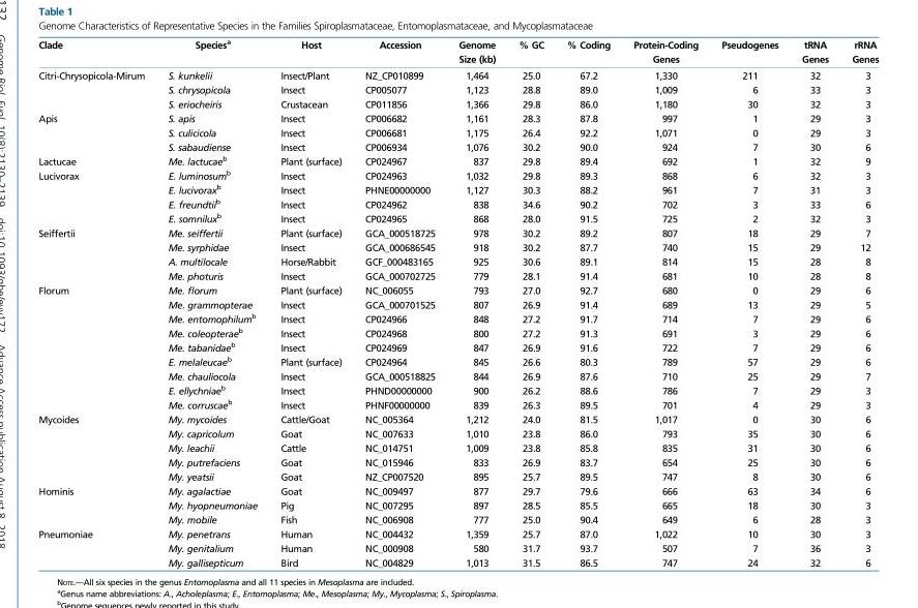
<table><thead><tr><td>Clade</td><td>Species<sup>a</sup></td><td>Host</td><td>Accession</td><td>Genome Size (kb)</td><td>% GC</td><td>% Coding</td><td>Protein-Coding Genes</td><td>Pseudogenes</td><td>tRNA Genes</td><td>rRNA Genes</td></tr></thead><tbody><tr><td rowspan="3">Citri-Chrysopicola-Mirum</td><td>S. kunkelii</td><td>Insect/Plant</td><td>NZ_CP010899</td><td>1,464</td><td>25.0</td><td>67.2</td><td>1,330</td><td>211</td><td>32</td><td>3</td></tr><tr><td>S. chrysopicola</td><td>Insect</td><td>CP005077</td><td>1,123</td><td>28.8</td><td>89.0</td><td>1,009</td><td>6</td><td>33</td><td>3</td></tr><tr><td>S. eriocheiris</td><td>Crustacean</td><td>CP011856</td><td>1,366</td><td>29.8</td><td>86.0</td><td>1,180</td><td>30</td><td>32</td><td>3</td></tr><tr><td rowspan="3">Apis</td><td>S. apis</td><td>Insect</td><td>CP006682</td><td>1,161</td><td>28.3</td><td>87.8</td><td>997</td><td>1</td><td>29</td><td>3</td></tr><tr><td>S. culicicola</td><td>Insect</td><td>CP006681</td><td>1,175</td><td>26.4</td><td>92.2</td><td>1,071</td><td>0</td><td>29</td><td>3</td></tr><tr><td>S. sabaudiense</td><td>Insect</td><td>CP006934</td><td>1,076</td><td>30.2</td><td>90.0</td><td>924</td><td>7</td><td>30</td><td>6</td></tr><tr><td>Lactucae</td><td>Me. lactucae<sup>b</sup></td><td>Plant (surface)</td><td>CP024967</td><td>837</td><td>29.8</td><td>89.4</td><td>692</td><td>1</td><td>32</td><td>9</td></tr><tr><td rowspan="4">Lucivorax</td><td>E. luminosum<sup>b</sup></td><td>Insect</td><td>CP024963</td><td>1,032</td><td>29.8</td><td>89.3</td><td>868</td><td>6</td><td>32</td><td>3</td></tr><tr><td>E. lucivorax<sup>b</sup></td><td>Insect</td><td>PHNE00000000</td><td>1,127</td><td>30.3</td><td>88.2</td><td>961</td><td>7</td><td>31</td><td>3</td></tr><tr><td>E. freundtii<sup>b</sup></td><td>Insect</td><td>CP024962</td><td>838</td><td>34.6</td><td>90.2</td><td>702</td><td>3</td><td>33</td><td>6</td></tr><tr><td>E. somnilux<sup>b</sup></td><td>Insect</td><td>CP024965</td><td>868</td><td>28.0</td><td>91.5</td><td>725</td><td>2</td><td>32</td><td>3</td></tr><tr><td rowspan="4">Seiffertii</td><td>Me. seiffertii</td><td>Plant (surface)</td><td>GCA_000518725</td><td>978</td><td>30.2</td><td>89.2</td><td>807</td><td>18</td><td>29</td><td>7</td></tr><tr><td>Me. syrphidae</td><td>Insect</td><td>GCA_000686545</td><td>918</td><td>30.2</td><td>87.7</td><td>740</td><td>15</td><td>29</td><td>12</td></tr><tr><td>A. multilocale</td><td>Horse/Rabbit</td><td>GCF_000483165</td><td>925</td><td>30.6</td><td>89.1</td><td>814</td><td>15</td><td>28</td><td>8</td></tr><tr><td>Me. photuris</td><td>Insect</td><td>GCA_000702725</td><td>779</td><td>28.1</td><td>91.4</td><td>681</td><td>10</td><td>28</td><td>8</td></tr><tr><td rowspan="9">Florum</td><td>Me. florum</td><td>Plant (surface)</td><td>NC_006055</td><td>793</td><td>27.0</td><td>92.7</td><td>680</td><td>0</td><td>29</td><td>6</td></tr><tr><td>Me. grammopterae</td><td>Insect</td><td>GCA_000701525</td><td>807</td><td>26.9</td><td>91.4</td><td>689</td><td>13</td><td>29</td><td>5</td></tr><tr><td>Me. entomophilum<sup>b</sup></td><td>Insect</td><td>CP024966</td><td>848</td><td>27.2</td><td>91.7</td><td>714</td><td>7</td><td>29</td><td>6</td></tr><tr><td>Me. coleopterae<sup>b</sup></td><td>Insect</td><td>CP024968</td><td>800</td><td>27.2</td><td>91.3</td><td>691</td><td>3</td><td>29</td><td>6</td></tr><tr><td>Me. tabanidae<sup>b</sup></td><td>Insect</td><td>CP024969</td><td>847</td><td>26.9</td><td>91.6</td><td>722</td><td>7</td><td>29</td><td>6</td></tr><tr><td>E. melaleucae<sup>b</sup></td><td>Plant (surface)</td><td>CP024964</td><td>845</td><td>26.6</td><td>80.3</td><td>789</td><td>57</td><td>29</td><td>6</td></tr><tr><td>Me. chauliocola</td><td>Insect</td><td>GCA_000518825</td><td>844</td><td>26.9</td><td>87.6</td><td>710</td><td>25</td><td>29</td><td>7</td></tr><tr><td>E. ellychniae<sup>b</sup></td><td>Insect</td><td>PHND00000000</td><td>900</td><td>26.2</td><td>88.6</td><td>786</td><td>7</td><td>29</td><td>3</td></tr><tr><td>Me. corruscae<sup>b</sup></td><td>Insect</td><td>PHNF00000000</td><td>839</td><td>26.3</td><td>89.5</td><td>701</td><td>4</td><td>29</td><td>3</td></tr><tr><td rowspan="5">Mycoides</td><td>My. mycoides</td><td>Cattle/Goat</td><td>NC_005364</td><td>1,212</td><td>24.0</td><td>81.5</td><td>1,017</td><td>0</td><td>30</td><td>6</td></tr><tr><td>My. capricolum</td><td>Goat</td><td>NC_007633</td><td>1,010</td><td>23.8</td><td>86.0</td><td>793</td><td>35</td><td>30</td><td>6</td></tr><tr><td>My. leachii</td><td>Cattle</td><td>NC_014751</td><td>1,009</td><td>23.8</td><td>85.8</td><td>835</td><td>31</td><td>30</td><td>6</td></tr><tr><td>My. putrefaciens</td><td>Goat</td><td>NC_015946</td><td>833</td><td>26.9</td><td>83.7</td><td>654</td><td>25</td><td>30</td><td>6</td></tr><tr><td>My. yeatsii</td><td>Goat</td><td>NZ_CP007520</td><td>895</td><td>25.7</td><td>89.5</td><td>747</td><td>8</td><td>30</td><td>6</td></tr><tr><td rowspan="3">Hominis</td><td>My. agalactiae</td><td>Goat</td><td>NC_009497</td><td>877</td><td>29.7</td><td>79.6</td><td>666</td><td>63</td><td>34</td><td>6</td></tr><tr><td>My. hyopneumoniae</td><td>Pig</td><td>NC_007295</td><td>897</td><td>28.5</td><td>85.5</td><td>665</td><td>18</td><td>30</td><td>3</td></tr><tr><td>My. mobile</td><td>Fish</td><td>NC_006908</td><td>777</td><td>25.0</td><td>90.4</td><td>649</td><td>6</td><td>28</td><td>3</td></tr><tr><td rowspan="3">Pneumoniae</td><td>My. penetrans</td><td>Human</td><td>NC_004432</td><td>1,359</td><td>25.7</td><td>87.0</td><td>1,022</td><td>10</td><td>30</td><td>3</td></tr><tr><td>My. genitalium</td><td>Human</td><td>NC_000908</td><td>580</td><td>31.7</td><td>93.7</td><td>507</td><td>7</td><td>36</td><td>3</td></tr><tr><td>My. gallisepticum</td><td>Bird</td><td>NC_004829</td><td>1,013</td><td>31.5</td><td>86.5</td><td>747</td><td>24</td><td>32</td><td>6</td></tr></tbody></table>